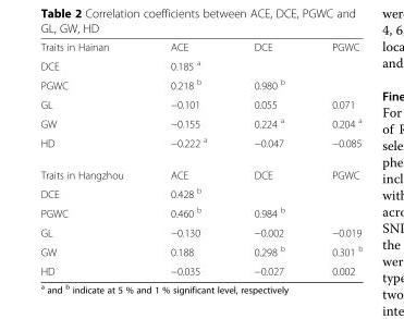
<table><tbody><tr><td>Traits in Hainan</td><td>ACE</td><td>DCE</td><td>PGWC</td></tr><tr><td>DCE</td><td>0.185 <sup>a</sup></td><td></td><td></td></tr><tr><td>PGWC</td><td>0.218 <sup>b</sup></td><td>0.980 <sup>b</sup></td><td></td></tr><tr><td>GL</td><td>−0.101</td><td>0.055</td><td>0.071</td></tr><tr><td>GW</td><td>−0.155</td><td>0.224 <sup>a</sup></td><td>0.204 <sup>a</sup></td></tr><tr><td>HD</td><td>−0.222 <sup>a</sup></td><td>−0.047</td><td>−0.085</td></tr><tr><td>Traits in Hangzhou</td><td>ACE</td><td>DCE</td><td>PGWC</td></tr><tr><td>DCE</td><td>0.428 <sup>b</sup></td><td></td><td></td></tr><tr><td>PGWC</td><td>0.460 <sup>b</sup></td><td>0.984 <sup>b</sup></td><td></td></tr><tr><td>GL</td><td>−0.130</td><td>−0.002</td><td>−0.019</td></tr><tr><td>GW</td><td>0.188</td><td>0.298 <sup>b</sup></td><td>0.301 <sup>b</sup></td></tr><tr><td>HD</td><td>−0.035</td><td>−0.027</td><td>0.002</td></tr></tbody></table>